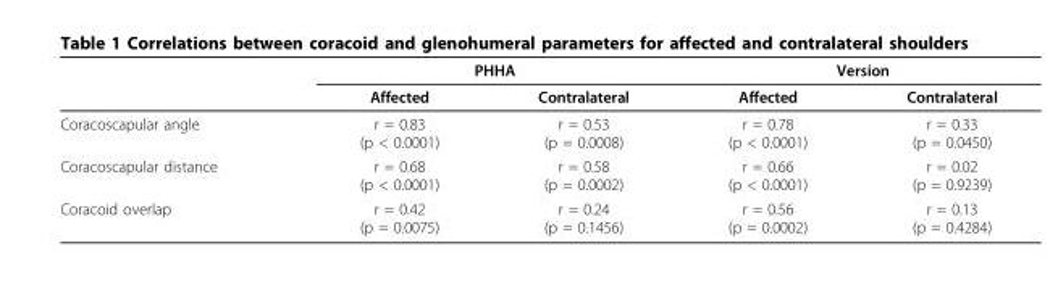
<table><thead><tr><td rowspan="2"></td><td colspan="2">PHHA</td><td colspan="2">Version</td></tr><tr><td>Affected</td><td>Contralateral</td><td>Affected</td><td>Contralateral</td></tr></thead><tbody><tr><td>Coracoscapular angle</td><td>r = 0.83 (p &lt; 0.0001)</td><td>r = 0.53 (p = 0.0008)</td><td>r = 0.78 (p &lt; 0.0001)</td><td>r = 0.33 (p = 0.0450)</td></tr><tr><td>Coracoscapular distance</td><td>r = 0.68 (p &lt; 0.0001)</td><td>r = 0.58 (p = 0.0002)</td><td>r = 0.66 (p &lt; 0.0001)</td><td>r = 0.02 (p = 0.9239)</td></tr><tr><td>Coracoid overlap</td><td>r = 0.42 (p = 0.0075)</td><td>r = 0.24 (p = 0.1456)</td><td>r = 0.56 (p = 0.0002)</td><td>r = 0.13 (p = 0.4284)</td></tr></tbody></table>